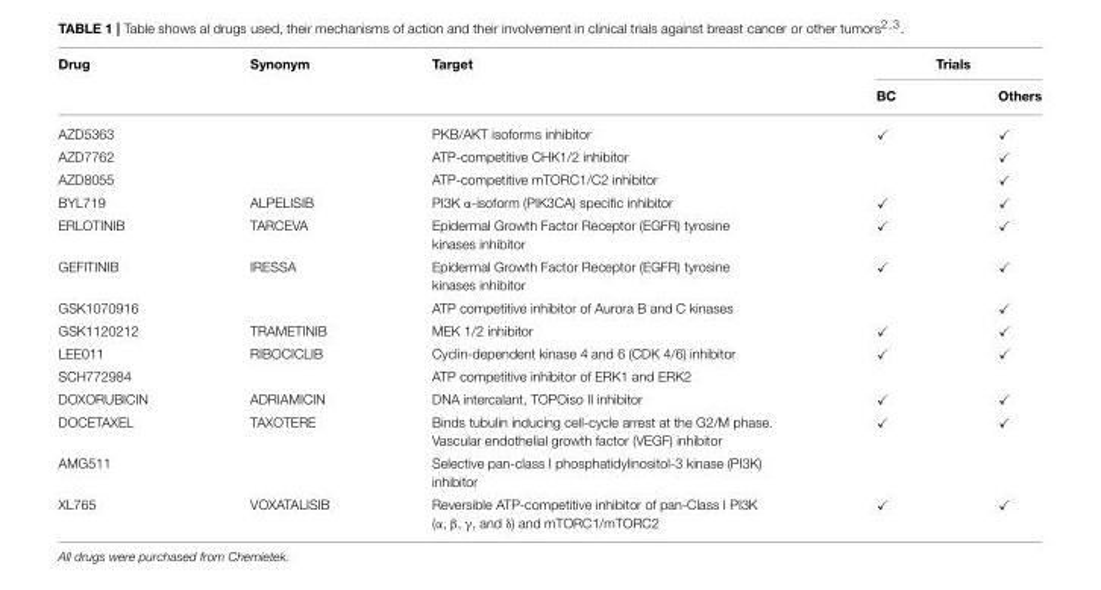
<table><thead><tr><td rowspan="2">Drug</td><td rowspan="2">Synonym</td><td rowspan="2">Target</td><td colspan="2">Trials</td></tr><tr><td>BC</td><td>Others</td></tr></thead><tbody><tr><td>AZD5363</td><td></td><td>PKB/AKT isoforms inhibitor</td><td>✓</td><td>✓</td></tr><tr><td>AZD7762</td><td></td><td>ATP-competitive CHK1/2 inhibitor</td><td></td><td>✓</td></tr><tr><td>AZD8055</td><td></td><td>ATP-competitive mTORC1/C2 inhibitor</td><td></td><td>✓</td></tr><tr><td>BYL719</td><td>ALPELISIB</td><td>PI3K α-isoform (PIK3CA) specific inhibitor</td><td>✓</td><td>✓</td></tr><tr><td>ERLOTINIB</td><td>TARCEVA</td><td>Epidermal Growth Factor Receptor (EGFR) tyrosine kinases inhibitor</td><td>✓</td><td>✓</td></tr><tr><td>GEFITINIB</td><td>IRESSA</td><td>Epidermal Growth Factor Receptor (EGFR) tyrosine kinases inhibitor</td><td>✓</td><td>✓</td></tr><tr><td>GSK1070916</td><td></td><td>ATP competitive inhibitor of Aurora B and C kinases</td><td></td><td>✓</td></tr><tr><td>GSK1120212</td><td>TRAMETINIB</td><td>MEK 1/2 inhibitor</td><td>✓</td><td>✓</td></tr><tr><td>LEE011</td><td>RIBOCICLIB</td><td>Cyclin-dependent kinase 4 and 6 (CDK 4/6) inhibitor</td><td>✓</td><td>✓</td></tr><tr><td>SCH772984</td><td></td><td>ATP competitive inhibitor of ERK1 and ERK2</td><td></td><td></td></tr><tr><td>DOXORUBICIN</td><td>ADRIAMICIN</td><td>DNA intercalant, TOPOiso II inhibitor</td><td>✓</td><td>✓</td></tr><tr><td>DOCETAXEL</td><td>TAXOTERE</td><td>Binds tubulin inducing cell-cycle arrest at the G2/M phase. Vascular endothelial growth factor (VEGF) inhibitor</td><td>✓</td><td>✓</td></tr><tr><td>AMG511</td><td></td><td>Selective pan-class I phosphatidylinositol-3 kinase (PI3K) inhibitor</td><td></td><td></td></tr><tr><td>XL765</td><td>VOXATALISIB</td><td>Reversible ATP-competitive inhibitor of pan-Class I PI3K (α, β, γ, and δ) and mTORC1/mTORC2</td><td>✓</td><td>✓</td></tr></tbody></table>